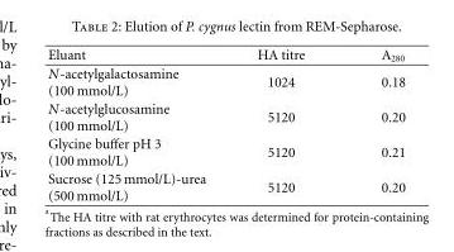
<table><thead><tr><td>Eluant</td><td>HA titre</td><td>A<sub>280</sub></td></tr></thead><tbody><tr><td>N-acetylgalactosamine (100 mmol/L)</td><td>1024</td><td>0.18</td></tr><tr><td>N-acetylglucosamine (100 mmol/L)</td><td>5120</td><td>0.20</td></tr><tr><td>Glycine buffer pH 3 (100 mmol/L)</td><td>5120</td><td>0.21</td></tr><tr><td>Sucrose (125 mmol/L)-urea (500 mmol/L)</td><td>5120</td><td>0.20</td></tr></tbody></table>